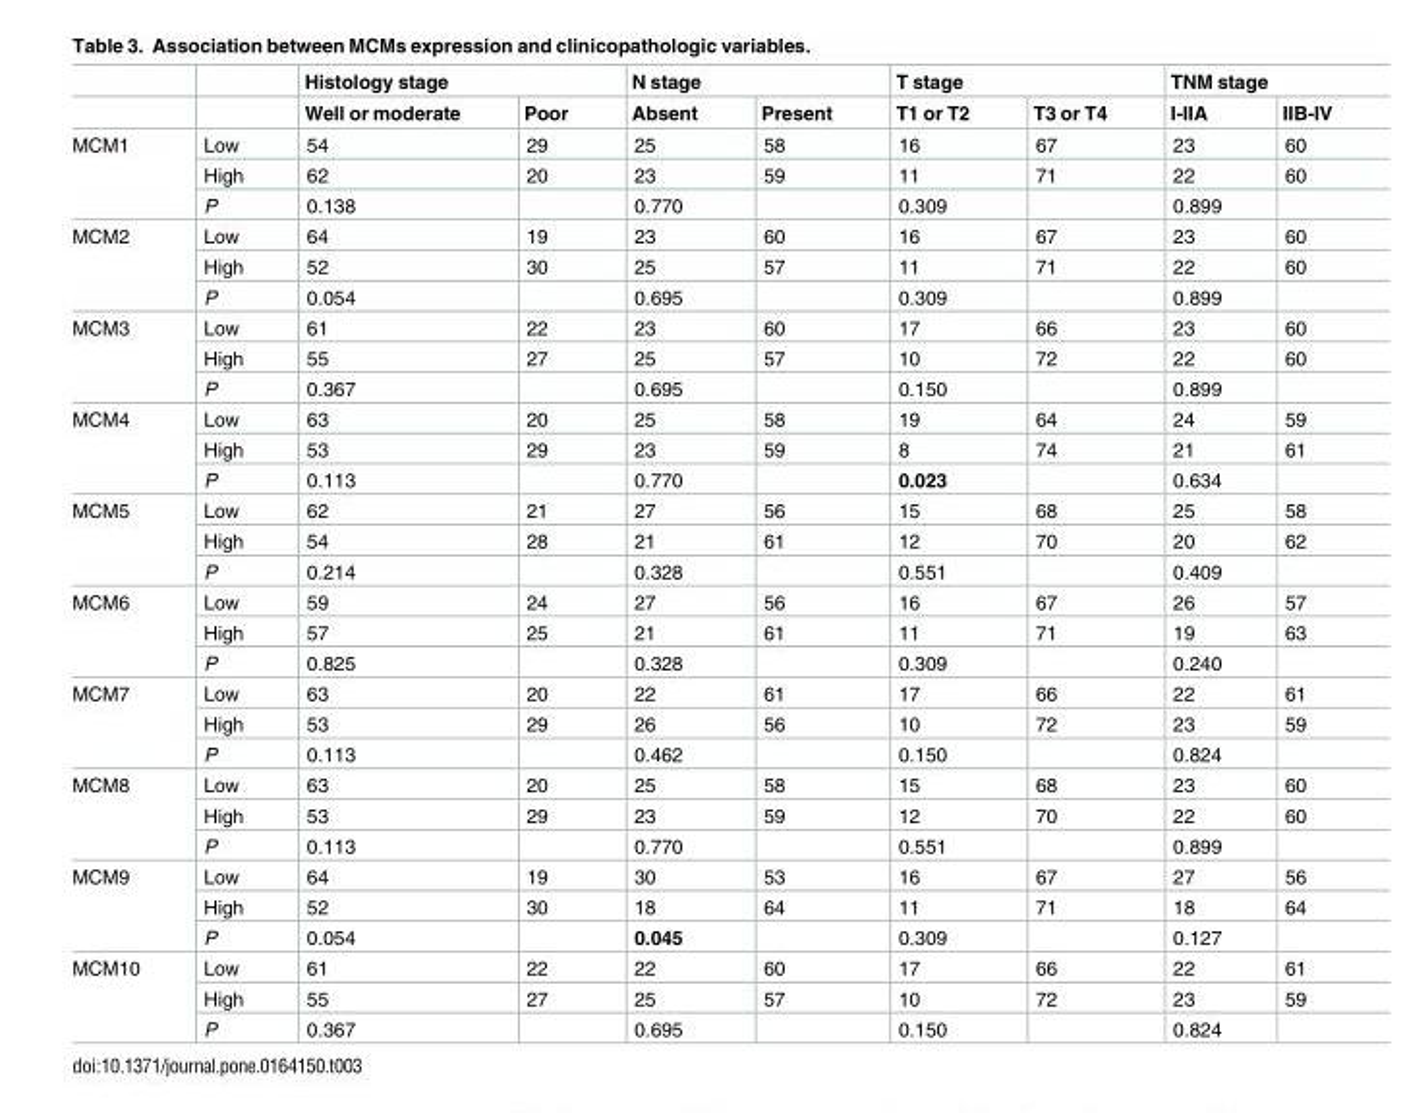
<table><thead><tr><td rowspan="2"></td><td rowspan="2"></td><td colspan="2">Histology stage</td><td colspan="2">N stage</td><td colspan="2">T stage</td><td colspan="2">TNM stage</td></tr><tr><td>Well or moderate</td><td>Poor</td><td>Absent</td><td>Present</td><td>T1 or T2</td><td>T3 or T4</td><td>I-IIA</td><td>IIB-IV</td></tr></thead><tbody><tr><td rowspan="3">MCM1</td><td>Low</td><td>54</td><td>29</td><td>25</td><td>58</td><td>16</td><td>67</td><td>23</td><td>60</td></tr><tr><td>High</td><td>62</td><td>20</td><td>23</td><td>59</td><td>11</td><td>71</td><td>22</td><td>60</td></tr><tr><td>P</td><td>0.138</td><td></td><td>0.770</td><td></td><td>0.309</td><td></td><td>0.899</td><td></td></tr><tr><td rowspan="3">MCM2</td><td>Low</td><td>64</td><td>19</td><td>23</td><td>60</td><td>16</td><td>67</td><td>23</td><td>60</td></tr><tr><td>High</td><td>52</td><td>30</td><td>25</td><td>57</td><td>11</td><td>71</td><td>22</td><td>60</td></tr><tr><td>P</td><td>0.054</td><td></td><td>0.695</td><td></td><td>0.309</td><td></td><td>0.899</td><td></td></tr><tr><td rowspan="3">MCM3</td><td>Low</td><td>61</td><td>22</td><td>23</td><td>60</td><td>17</td><td>66</td><td>23</td><td>60</td></tr><tr><td>High</td><td>55</td><td>27</td><td>25</td><td>57</td><td>10</td><td>72</td><td>22</td><td>60</td></tr><tr><td>P</td><td>0.367</td><td></td><td>0.695</td><td></td><td>0.150</td><td></td><td>0.899</td><td></td></tr><tr><td rowspan="3">MCM4</td><td>Low</td><td>63</td><td>20</td><td>25</td><td>58</td><td>19</td><td>64</td><td>24</td><td>59</td></tr><tr><td>High</td><td>53</td><td>29</td><td>23</td><td>59</td><td>8</td><td>74</td><td>21</td><td>61</td></tr><tr><td>P</td><td>0.113</td><td></td><td>0.770</td><td></td><td>0.023</td><td></td><td>0.634</td><td></td></tr><tr><td rowspan="3">MCM5</td><td>Low</td><td>62</td><td>21</td><td>27</td><td>56</td><td>15</td><td>68</td><td>25</td><td>58</td></tr><tr><td>High</td><td>54</td><td>28</td><td>21</td><td>61</td><td>12</td><td>70</td><td>20</td><td>62</td></tr><tr><td>P</td><td>0.214</td><td></td><td>0.328</td><td></td><td>0.551</td><td></td><td>0.409</td><td></td></tr><tr><td rowspan="3">MCM6</td><td>Low</td><td>59</td><td>24</td><td>27</td><td>56</td><td>16</td><td>67</td><td>26</td><td>57</td></tr><tr><td>High</td><td>57</td><td>25</td><td>21</td><td>61</td><td>11</td><td>71</td><td>19</td><td>63</td></tr><tr><td>P</td><td>0.825</td><td></td><td>0.328</td><td></td><td>0.309</td><td></td><td>0.240</td><td></td></tr><tr><td rowspan="3">MCM7</td><td>Low</td><td>63</td><td>20</td><td>22</td><td>61</td><td>17</td><td>66</td><td>22</td><td>61</td></tr><tr><td>High</td><td>53</td><td>29</td><td>26</td><td>56</td><td>10</td><td>72</td><td>23</td><td>59</td></tr><tr><td>P</td><td>0.113</td><td></td><td>0.462</td><td></td><td>0.150</td><td></td><td>0.824</td><td></td></tr><tr><td rowspan="3">MCM8</td><td>Low</td><td>63</td><td>20</td><td>25</td><td>58</td><td>15</td><td>68</td><td>23</td><td>60</td></tr><tr><td>High</td><td>53</td><td>29</td><td>23</td><td>59</td><td>12</td><td>70</td><td>22</td><td>60</td></tr><tr><td>P</td><td>0.113</td><td></td><td>0.770</td><td></td><td>0.551</td><td></td><td>0.899</td><td></td></tr><tr><td rowspan="3">MCM9</td><td>Low</td><td>64</td><td>19</td><td>30</td><td>53</td><td>16</td><td>67</td><td>27</td><td>56</td></tr><tr><td>High</td><td>52</td><td>30</td><td>18</td><td>64</td><td>11</td><td>71</td><td>18</td><td>64</td></tr><tr><td>P</td><td>0.054</td><td></td><td>0.045</td><td></td><td>0.309</td><td></td><td>0.127</td><td></td></tr><tr><td rowspan="3">MCM10</td><td>Low</td><td>61</td><td>22</td><td>22</td><td>60</td><td>17</td><td>66</td><td>22</td><td>61</td></tr><tr><td>High</td><td>55</td><td>27</td><td>25</td><td>57</td><td>10</td><td>72</td><td>23</td><td>59</td></tr><tr><td>P</td><td>0.367</td><td></td><td>0.695</td><td></td><td>0.150</td><td></td><td>0.824</td><td></td></tr></tbody></table>